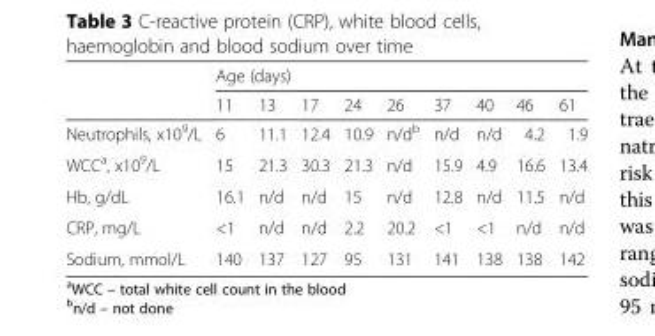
<table><thead><tr><td rowspan="2"></td><td colspan="9">Age (days)</td></tr><tr><td>11</td><td>13</td><td>17</td><td>24</td><td>26</td><td>37</td><td>40</td><td>46</td><td>61</td></tr></thead><tbody><tr><td>Neutrophils, x10<sup>9</sup>/L</td><td>6</td><td>11.1</td><td>12.4</td><td>10.9</td><td>n/d<sup>b</sup></td><td>n/d</td><td>n/d</td><td>4.2</td><td>1.9</td></tr><tr><td>WCC<sup>a</sup>, x10<sup>9</sup>/L</td><td>15</td><td>21.3</td><td>30.3</td><td>21.3</td><td>n/d</td><td>15.9</td><td>4.9</td><td>16.6</td><td>13.4</td></tr><tr><td>Hb, g/dL</td><td>16.1</td><td>n/d</td><td>n/d</td><td>15</td><td>n/d</td><td>12.8</td><td>n/d</td><td>11.5</td><td>n/d</td></tr><tr><td>CRP, mg/L</td><td>&lt;1</td><td>n/d</td><td>n/d</td><td>2.2</td><td>20.2</td><td>&lt;1</td><td>&lt;1</td><td>n/d</td><td>n/d</td></tr><tr><td>Sodium, mmol/L</td><td>140</td><td>137</td><td>127</td><td>95</td><td>131</td><td>141</td><td>138</td><td>138</td><td>142</td></tr></tbody></table>